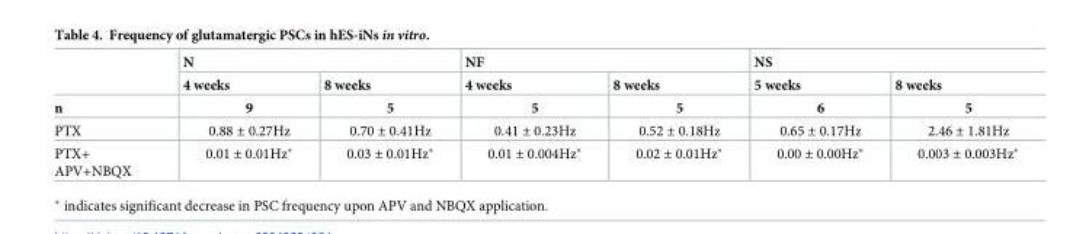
<table><thead><tr><td rowspan="3">n</td><td colspan="2">N</td><td colspan="2">NF</td><td colspan="2">NS</td></tr><tr><td rowspan="2">4 weeks 9</td><td rowspan="2">8 weeks 5</td><td rowspan="2">4 weeks 5</td><td rowspan="2">8 weeks 5</td><td rowspan="2">5 weeks 6</td><td rowspan="2">8 weeks 5</td></tr><tr></tr></thead><tbody><tr><td>PTX</td><td>0.88 ± 0.27Hz</td><td>0.70 ± 0.41Hz</td><td>0.41 ± 0.23Hz</td><td>0.52 ± 0.18Hz</td><td>0.65 ± 0.17Hz</td><td>2.46 ± 1.81Hz</td></tr><tr><td>PTX+ APV+NBQX</td><td>0.01 ± 0.01Hz*</td><td>0.03 ± 0.01Hz*</td><td>0.01 ± 0.004Hz*</td><td>0.02 ± 0.01Hz*</td><td>0.00 ± 0.00Hz*</td><td>0.003 ± 0.003Hz*</td></tr></tbody></table>